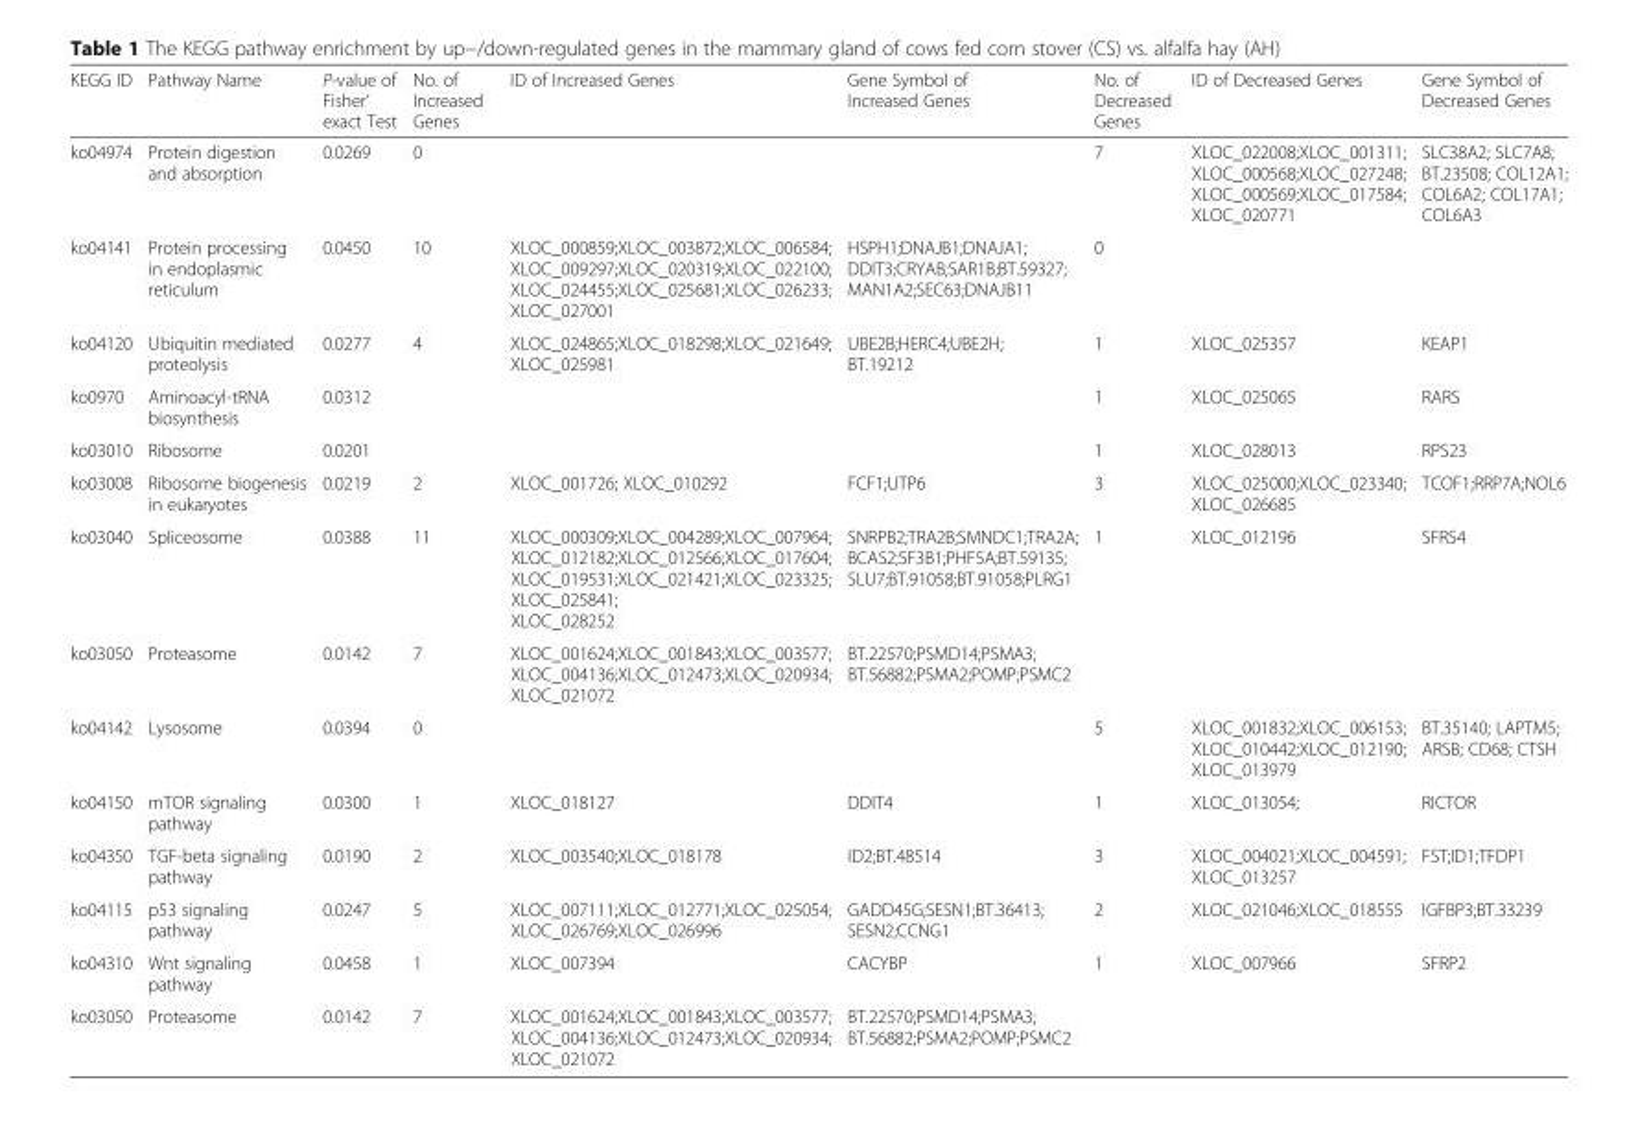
<table><thead><tr><td>KEGG ID</td><td>Pathway Name</td><td>P-value of Fisher’ exact Test</td><td>No. of Increased Genes</td><td>ID of Increased Genes</td><td>Gene Symbol of Increased Genes</td><td>No. of Decreased Genes</td><td>ID of Decreased Genes</td><td>Gene Symbol of Decreased Genes</td></tr></thead><tbody><tr><td>ko04974</td><td>Protein digestion and absorption</td><td>0.0269</td><td>0</td><td></td><td></td><td>7</td><td>XLOC_022008;XLOC_001311; XLOC_000568;XLOC_027248; XLOC_000569;XLOC_017584; XLOC_020771</td><td>SLC38A2; SLC7A8; BT.23508; COL12A1; COL6A2; COL17A1; COL6A3</td></tr><tr><td>ko04141</td><td>Protein processing in endoplasmic reticulum</td><td>0.0450</td><td>10</td><td>XLOC_000859;XLOC_003872;XLOC_006584; XLOC_009297;XLOC_020319;XLOC_022100; XLOC_024455;XLOC_025681;XLOC_026233; XLOC_027001</td><td>HSPH1;DNAJB1;DNAJA1; DDIT3;CRYAB;SAR1B;BT.59327; MAN1A2;SEC63;DNAJB11</td><td>0</td><td></td><td></td></tr><tr><td>ko04120</td><td>Ubiquitin mediated proteolysis</td><td>0.0277</td><td>4</td><td>XLOC_024865;XLOC_018298;XLOC_021649; XLOC_025981</td><td>UBE2B;HERC4;UBE2H; BT.19212</td><td>1</td><td>XLOC_025357</td><td>KEAP1</td></tr><tr><td>ko0970</td><td>Aminoacyl-tRNA biosynthesis</td><td>0.0312</td><td></td><td></td><td></td><td>1</td><td>XLOC_025065</td><td>RARS</td></tr><tr><td>ko03010</td><td>Ribosome</td><td>0.0201</td><td></td><td></td><td></td><td>1</td><td>XLOC_028013</td><td>RPS23</td></tr><tr><td>ko03008</td><td>Ribosome biogenesis in eukaryotes</td><td>0.0219</td><td>2</td><td>XLOC_001726; XLOC_010292</td><td>FCF1;UTP6</td><td>3</td><td>XLOC_025000;XLOC_023340; XLOC_026685</td><td>TCOF1;RRP7A;NOL6</td></tr><tr><td>ko03040</td><td>Spliceosome</td><td>0.0388</td><td>11</td><td>XLOC_000309;XLOC_004289;XLOC_007964; XLOC_012182;XLOC_012566;XLOC_017604; XLOC_019531;XLOC_021421;XLOC_023325; XLOC_025841; XLOC_028252</td><td>SNRPB2;TRA2B;SMNDC1;TRA2A; BCAS2;SF3B1;PHF5A;BT.59135; SLU7;BT.91058;BT.91058;PLRG1</td><td>1</td><td>XLOC_012196</td><td>SFRS4</td></tr><tr><td>ko03050</td><td>Proteasome</td><td>0.0142</td><td>7</td><td>XLOC_001624;XLOC_001843;XLOC_003577; XLOC_004136;XLOC_012473;XLOC_020934; XLOC_021072</td><td>BT.22570;PSMD14;PSMA3; BT.56882;PSMA2;POMP;PSMC2</td><td></td><td></td><td></td></tr><tr><td>ko04142</td><td>Lysosome</td><td>0.0394</td><td>0</td><td></td><td></td><td>5</td><td>XLOC_001832;XLOC_006153; XLOC_010442;XLOC_012190; XLOC_013979</td><td>BT.35140; LAPTM5; ARSB; CD68; CTSH</td></tr><tr><td>ko04150</td><td>mTOR signaling pathway</td><td>0.0300</td><td>1</td><td>XLOC_018127</td><td>DDIT4</td><td>1</td><td>XLOC_013054;</td><td>RICTOR</td></tr><tr><td>ko04350</td><td>TGF-beta signaling pathway</td><td>0.0190</td><td>2</td><td>XLOC_003540;XLOC_018178</td><td>ID2;BT.48514</td><td>3</td><td>XLOC_004021;XLOC_004591; XLOC_013257</td><td>FST;ID1;TFDP1</td></tr><tr><td>ko04115</td><td>p53 signaling pathway</td><td>0.0247</td><td>5</td><td>XLOC_007111;XLOC_012771;XLOC_025054; XLOC_026769;XLOC_026996</td><td>GADD45G;SESN1;BT.36413; SESN2;CCNG1</td><td>2</td><td>XLOC_021046;XLOC_018555</td><td>IGFBP3;BT.33239</td></tr><tr><td>ko04310</td><td>Wnt signaling pathway</td><td>0.0458</td><td>1</td><td>XLOC_007394</td><td>CACYBP</td><td>1</td><td>XLOC_007966</td><td>SFRP2</td></tr><tr><td>ko03050</td><td>Proteasome</td><td>0.0142</td><td>7</td><td>XLOC_001624;XLOC_001843;XLOC_003577; XLOC_004136;XLOC_012473;XLOC_020934; XLOC_021072</td><td>BT.22570;PSMD14;PSMA3; BT.56882;PSMA2;POMP;PSMC2</td><td></td><td></td><td></td></tr></tbody></table>